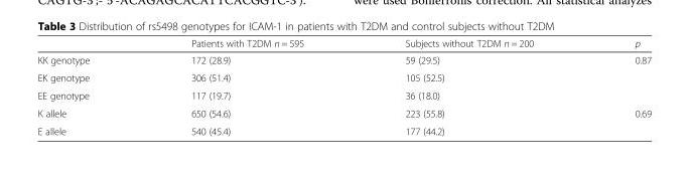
<table><thead><tr><td></td><td>Patients with T2DM n = 595</td><td>Subjects without T2DM n = 200</td><td>p</td></tr></thead><tbody><tr><td>KK genotype</td><td>172 (28.9)</td><td>59 (29.5)</td><td rowspan="3">0.87</td></tr><tr><td>EK genotype</td><td>306 (51.4)</td><td>105 (52.5)</td></tr><tr><td>EE genotype</td><td>117 (19.7)</td><td>36 (18.0)</td></tr><tr><td>K allele</td><td>650 (54.6)</td><td>223 (55.8)</td><td rowspan="2">0.69</td></tr><tr><td>E allele</td><td>540 (45.4)</td><td>177 (44.2)</td></tr></tbody></table>